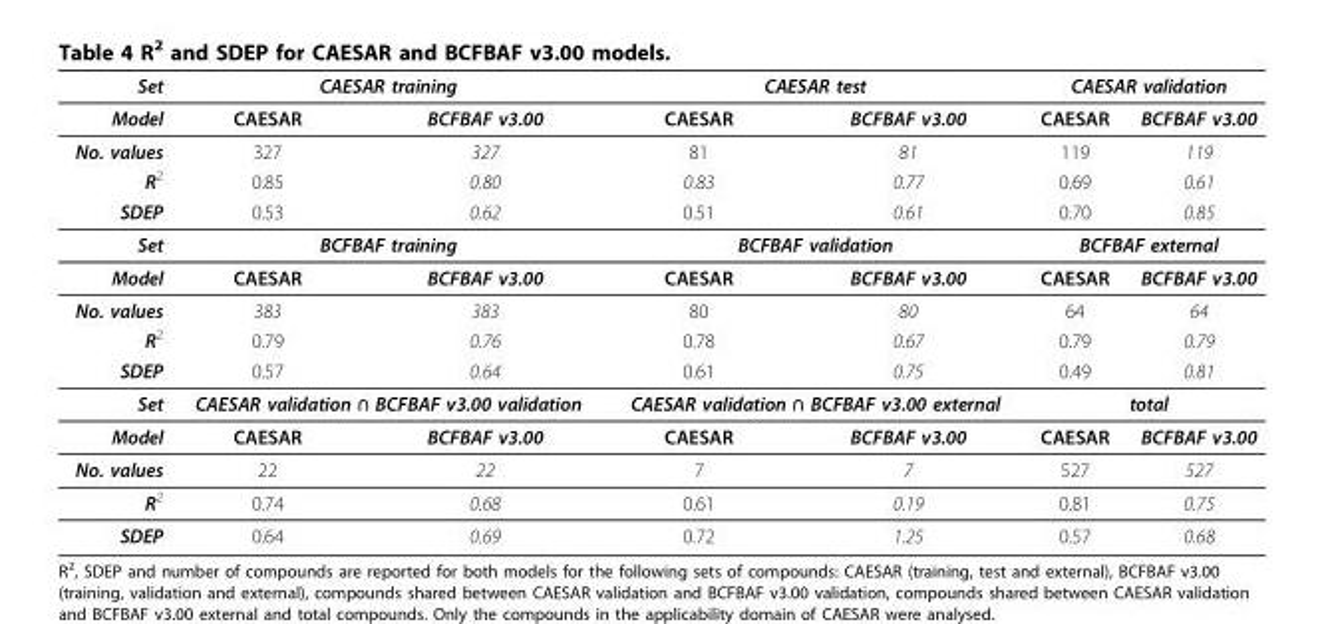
<table><thead><tr><td rowspan="2">Set Model</td><td colspan="2">CAESAR training</td><td colspan="2">CAESAR test</td><td colspan="2">CAESAR validation</td></tr><tr><td>CAESAR</td><td>BCFBAF v3.00</td><td>CAESAR</td><td>BCFBAF v3.00</td><td>CAESAR</td><td>BCFBAF v3.00</td></tr></thead><tbody><tr><td>No. values</td><td>327</td><td>327</td><td>81</td><td>81</td><td>119</td><td>119</td></tr><tr><td>R2</td><td>0.85</td><td>0.80</td><td>0.83</td><td>0.77</td><td>0.69</td><td>0.61</td></tr><tr><td>SDEP</td><td>0.53</td><td>0.62</td><td>0.51</td><td>0.61</td><td>0.70</td><td>0.85</td></tr><tr><td>Set</td><td colspan="2">BCFBAF training</td><td colspan="2">BCFBAF validation</td><td colspan="2">BCFBAF external</td></tr><tr><td>Model</td><td>CAESAR</td><td>BCFBAF v3.00</td><td>CAESAR</td><td>BCFBAF v3.00</td><td>CAESAR</td><td>BCFBAF v3.00</td></tr><tr><td>No. values</td><td>383</td><td>383</td><td>80</td><td>80</td><td>64</td><td>64</td></tr><tr><td>R2</td><td>0.79</td><td>0.76</td><td>0.78</td><td>0.67</td><td>0.79</td><td>0.79</td></tr><tr><td>SDEP</td><td>0.57</td><td>0.64</td><td>0.61</td><td>0.75</td><td>0.49</td><td>0.81</td></tr><tr><td>Set</td><td colspan="2">CAESAR validation ∩ BCFBAF v3.00 validation</td><td colspan="2">CAESAR validation ∩ BCFBAF v3.00 external</td><td colspan="2">total</td></tr><tr><td>Model</td><td>CAESAR</td><td>BCFBAF v3.00</td><td>CAESAR</td><td>BCFBAF v3.00</td><td>CAESAR</td><td>BCFBAF v3.00</td></tr><tr><td>No. values</td><td>22</td><td>22</td><td>7</td><td>7</td><td>527</td><td>527</td></tr><tr><td>R2</td><td>0.74</td><td>0.68</td><td>0.61</td><td>0.19</td><td>0.81</td><td>0.75</td></tr><tr><td>SDEP</td><td>0.64</td><td>0.69</td><td>0.72</td><td>1.25</td><td>0.57</td><td>0.68</td></tr></tbody></table>